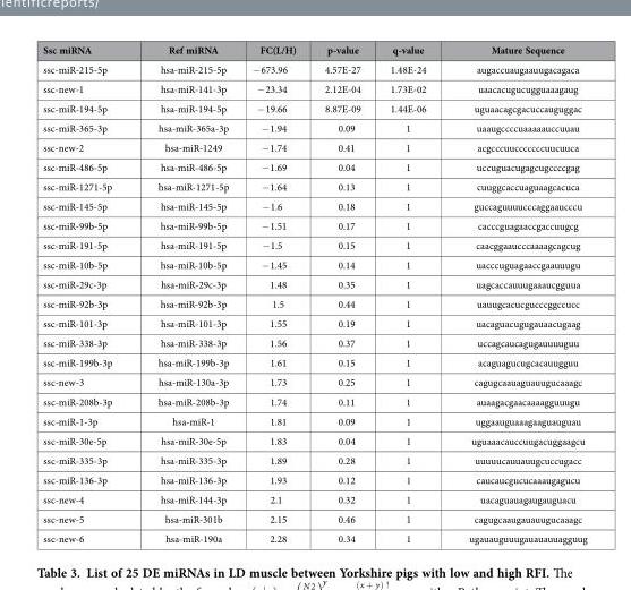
<table><thead><tr><td>Ssc miRNA</td><td>Ref miRNA</td><td>FC(L/H)</td><td>p-value</td><td>q-value</td><td>Mature Sequence</td></tr></thead><tbody><tr><td>ssc-miR-215-5p</td><td>hsa-miR-215-5p</td><td>− 673.96</td><td>4.57E-27</td><td>1.48E-24</td><td>augaccuaugaauugacagaca</td></tr><tr><td>ssc-new-1</td><td>hsa-miR-141-3p</td><td>− 23.34</td><td>2.12E-04</td><td>1.73E-02</td><td>uaacacugucugguaaagaug</td></tr><tr><td>ssc-miR-194-5p</td><td>hsa-miR-194-5p</td><td>− 19.66</td><td>8.87E-09</td><td>1.44E-06</td><td>uguaacagcgacuccauguggac</td></tr><tr><td>ssc-miR-365-3p</td><td>hsa-miR-365a-3p</td><td>− 1.94</td><td>0.09</td><td>1</td><td>uaaugccccuaaaaauccuuau</td></tr><tr><td>ssc-new-2</td><td>hsa-miR-1249</td><td>− 1.74</td><td>0.41</td><td>1</td><td>acgcccuucccccccuucuuca</td></tr><tr><td>ssc-miR-486-5p</td><td>hsa-miR-486-5p</td><td>− 1.69</td><td>0.04</td><td>1</td><td>uccuguacugagcugccccgag</td></tr><tr><td>ssc-miR-1271-5p</td><td>hsa-miR-1271-5p</td><td>− 1.64</td><td>0.13</td><td>1</td><td>cuuggcaccuaguaagcacuca</td></tr><tr><td>ssc-miR-145-5p</td><td>hsa-miR-145-5p</td><td>− 1.6</td><td>0.18</td><td>1</td><td>guccaguuuucccaggaaucccu</td></tr><tr><td>ssc-miR-99b-5p</td><td>hsa-miR-99b-5p</td><td>− 1.51</td><td>0.17</td><td>1</td><td>cacccguagaaccgaccuugcg</td></tr><tr><td>ssc-miR-191-5p</td><td>hsa-miR-191-5p</td><td>− 1.5</td><td>0.15</td><td>1</td><td>caacggaaucccaaaagcagcug</td></tr><tr><td>ssc-miR-10b-5p</td><td>hsa-miR-10b-5p</td><td>− 1.45</td><td>0.14</td><td>1</td><td>uacccuguagaaccgaauuugu</td></tr><tr><td>ssc-miR-29c-3p</td><td>hsa-miR-29c-3p</td><td>1.48</td><td>0.35</td><td>1</td><td>uagcaccauuugaaaucgguua</td></tr><tr><td>ssc-miR-92b-3p</td><td>hsa-miR-92b-3p</td><td>1.5</td><td>0.44</td><td>1</td><td>uauugcacucgucccggccucc</td></tr><tr><td>ssc-miR-101-3p</td><td>hsa-miR-101-3p</td><td>1.55</td><td>0.19</td><td>1</td><td>uacaguacugugauaacugaag</td></tr><tr><td>ssc-miR-338-3p</td><td>hsa-miR-338-3p</td><td>1.56</td><td>0.37</td><td>1</td><td>uccagcaucagugauuuuguu</td></tr><tr><td>ssc-miR-199b-3p</td><td>hsa-miR-199b-3p</td><td>1.61</td><td>0.15</td><td>1</td><td>acaguagucugcacauugguu</td></tr><tr><td>ssc-new-3</td><td>hsa-miR-130a-3p</td><td>1.73</td><td>0.25</td><td>1</td><td>cagugcaauaguauugucaaagc</td></tr><tr><td>ssc-miR-208b-3p</td><td>hsa-miR-208b-3p</td><td>1.74</td><td>0.11</td><td>1</td><td>auaagacgaacaaaagguuugu</td></tr><tr><td>ssc-miR-1-3p</td><td>hsa-miR-1</td><td>1.81</td><td>0.09</td><td>1</td><td>uggaauguaaagaaguauguau</td></tr><tr><td>ssc-miR-30e-5p</td><td>hsa-miR-30e-5p</td><td>1.83</td><td>0.04</td><td>1</td><td>uguaaacauccuugacuggaagcu</td></tr><tr><td>ssc-miR-335-3p</td><td>hsa-miR-335-3p</td><td>1.89</td><td>0.28</td><td>1</td><td>uuuuucauuauugcuccugacc</td></tr><tr><td>ssc-miR-136-3p</td><td>hsa-miR-136-3p</td><td>1.93</td><td>0.12</td><td>1</td><td>caucaucgucucaaaugagucu</td></tr><tr><td>ssc-new-4</td><td>hsa-miR-144-3p</td><td>2.1</td><td>0.32</td><td>1</td><td>uacaguauagaugauguacu</td></tr><tr><td>ssc-new-5</td><td>hsa-miR-301b</td><td>2.15</td><td>0.46</td><td>1</td><td>cagugcaaugauauugucaaagc</td></tr><tr><td>ssc-new-6</td><td>hsa-miR-190a</td><td>2.28</td><td>0.34</td><td>1</td><td>ugauauguuugauauauuagguug</td></tr></tbody></table>